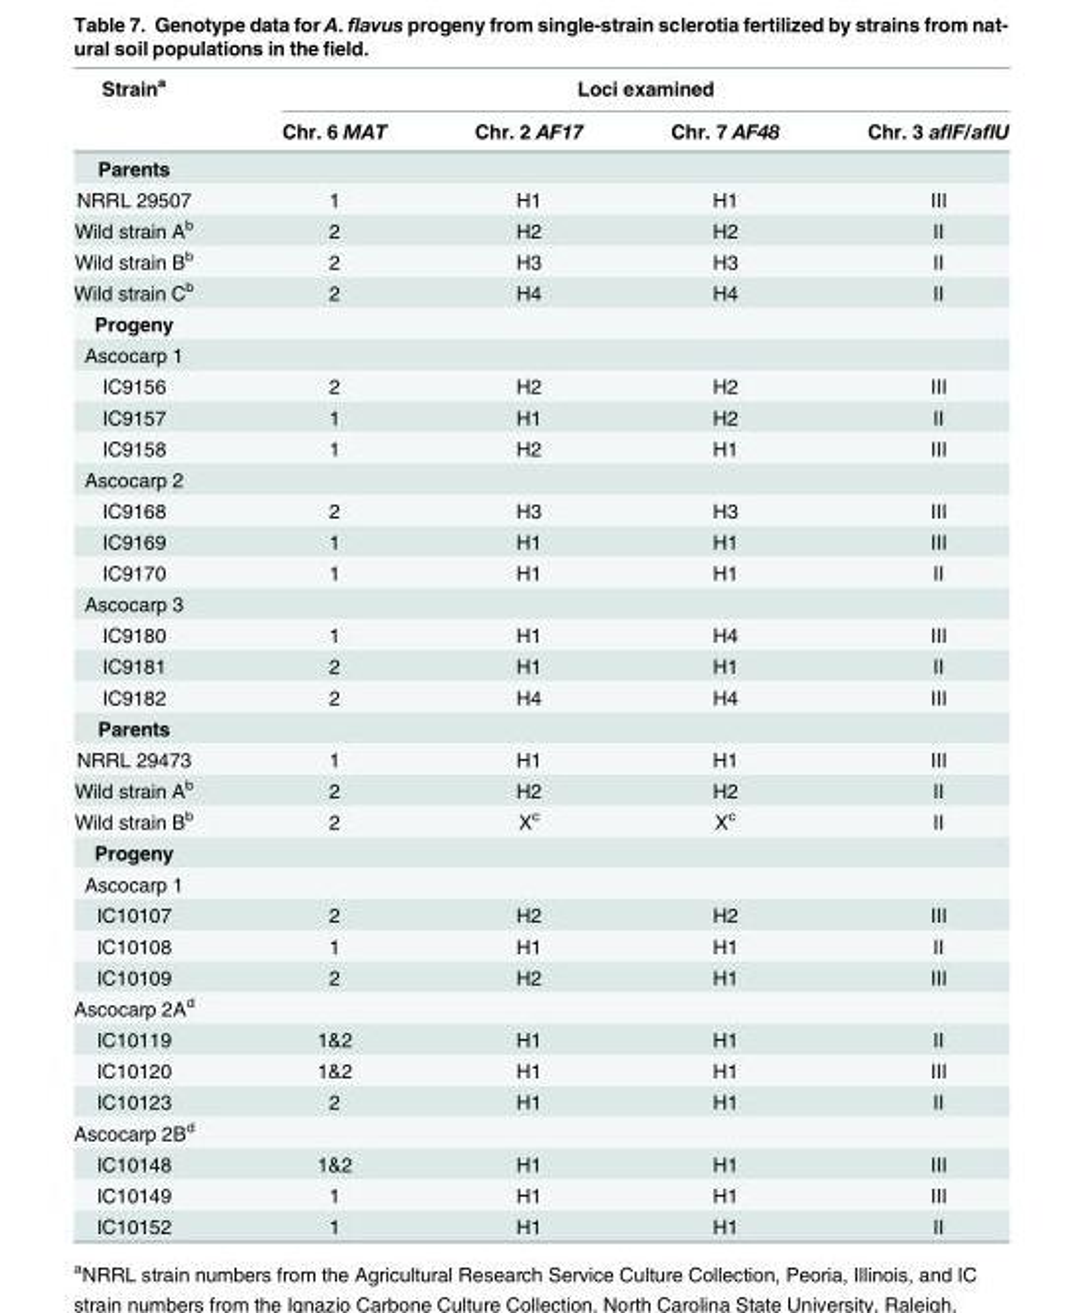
<table><thead><tr><td rowspan="2">Strain<sup>a</sup></td><td colspan="4">Loci examined</td></tr><tr><td>Chr. 6 MAT</td><td>Chr. 2 AF17</td><td>Chr. 7 AF48</td><td>Chr. 3 aflF/aflU</td></tr></thead><tbody><tr><td colspan="5">Parents</td></tr><tr><td>NRRL 29507</td><td>1</td><td>H1</td><td>H1</td><td>III</td></tr><tr><td>Wild strain A<sup>b</sup></td><td>2</td><td>H2</td><td>H2</td><td>II</td></tr><tr><td>Wild strain B<sup>b</sup></td><td>2</td><td>H3</td><td>H3</td><td>II</td></tr><tr><td>Wild strain C<sup>b</sup></td><td>2</td><td>H4</td><td>H4</td><td>II</td></tr><tr><td colspan="5">Progeny</td></tr><tr><td colspan="5">Ascocarp 1</td></tr><tr><td>IC9156</td><td>2</td><td>H2</td><td>H2</td><td>III</td></tr><tr><td>IC9157</td><td>1</td><td>H1</td><td>H2</td><td>II</td></tr><tr><td>IC9158</td><td>1</td><td>H2</td><td>H1</td><td>III</td></tr><tr><td colspan="5">Ascocarp 2</td></tr><tr><td>IC9168</td><td>2</td><td>H3</td><td>H3</td><td>III</td></tr><tr><td>IC9169</td><td>1</td><td>H1</td><td>H1</td><td>III</td></tr><tr><td>IC9170</td><td>1</td><td>H1</td><td>H1</td><td>II</td></tr><tr><td colspan="5">Ascocarp 3</td></tr><tr><td>IC9180</td><td>1</td><td>H1</td><td>H4</td><td>III</td></tr><tr><td>IC9181</td><td>2</td><td>H1</td><td>H1</td><td>II</td></tr><tr><td>IC9182</td><td>2</td><td>H4</td><td>H4</td><td>III</td></tr><tr><td colspan="5">Parents</td></tr><tr><td>NRRL 29473</td><td>1</td><td>H1</td><td>H1</td><td>III</td></tr><tr><td>Wild strain A<sup>b</sup></td><td>2</td><td>H2</td><td>H2</td><td>II</td></tr><tr><td>Wild strain B<sup>b</sup></td><td>2</td><td>X<sup>c</sup></td><td>X<sup>c</sup></td><td>II</td></tr><tr><td colspan="5">Progeny</td></tr><tr><td colspan="5">Ascocarp 1</td></tr><tr><td>IC10107</td><td>2</td><td>H2</td><td>H2</td><td>III</td></tr><tr><td>IC10108</td><td>1</td><td>H1</td><td>H1</td><td>II</td></tr><tr><td>IC10109</td><td>2</td><td>H2</td><td>H1</td><td>III</td></tr><tr><td colspan="5">Ascocarp 2A<sup>d</sup></td></tr><tr><td>IC10119</td><td>1&amp;2</td><td>H1</td><td>H1</td><td>II</td></tr><tr><td>IC10120</td><td>1&amp;2</td><td>H1</td><td>H1</td><td>III</td></tr><tr><td>IC10123</td><td>2</td><td>H1</td><td>H1</td><td>II</td></tr><tr><td colspan="5">Ascocarp 2B<sup>d</sup></td></tr><tr><td>IC10148</td><td>1&amp;2</td><td>H1</td><td>H1</td><td>III</td></tr><tr><td>IC10149</td><td>1</td><td>H1</td><td>H1</td><td>III</td></tr><tr><td>IC10152</td><td>1</td><td>H1</td><td>H1</td><td>II</td></tr></tbody></table>